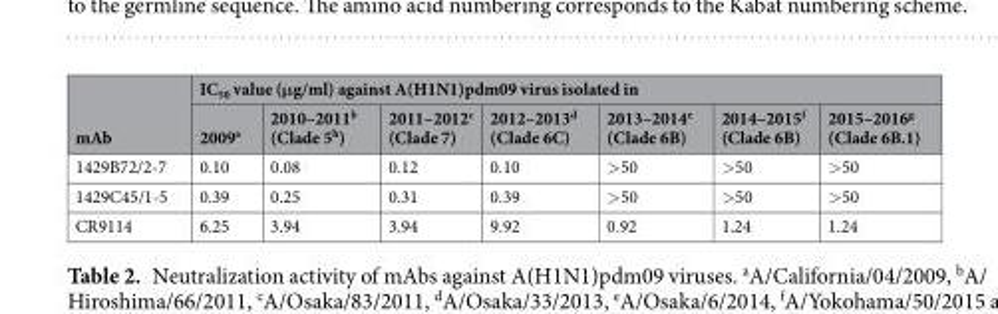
<table><thead><tr><td rowspan="2">mAb</td><td colspan="7">IC<sub>50</sub> value (μg/ml) against A(H1N1)pdm09 virus isolated in</td></tr><tr><td>2009<sup>a</sup></td><td>2010–2011<sup>b</sup> (Clade 5<sup>h</sup>)</td><td>2011–2012<sup>c</sup> (Clade 7)</td><td>2012–2013<sup>d</sup> (Clade 6C)</td><td>2013–2014<sup>e</sup> (Clade 6B)</td><td>2014–2015<sup>f</sup> (Clade 6B)</td><td>2015–2016<sup>g</sup> (Clade 6B.1)</td></tr></thead><tbody><tr><td>1429B72/2-7</td><td>0.10</td><td>0.08</td><td>0.12</td><td>0.10</td><td>&gt;50</td><td>&gt;50</td><td>&gt;50</td></tr><tr><td>1429C45/1-5</td><td>0.39</td><td>0.25</td><td>0.31</td><td>0.39</td><td>&gt;50</td><td>&gt;50</td><td>&gt;50</td></tr><tr><td>CR9114</td><td>6.25</td><td>3.94</td><td>3.94</td><td>9.92</td><td>0.92</td><td>1.24</td><td>1.24</td></tr></tbody></table>